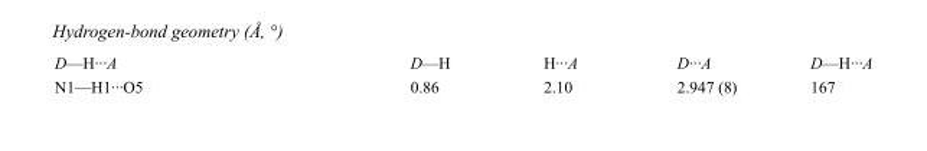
<table><tbody><tr><td>D—H···A</td><td>D—H</td><td>H···A</td><td>D···A</td><td>D—H···A</td></tr><tr><td>N1—H1···O5</td><td>0.86</td><td>2.10</td><td>2.947 (8)</td><td>167</td></tr></tbody></table>